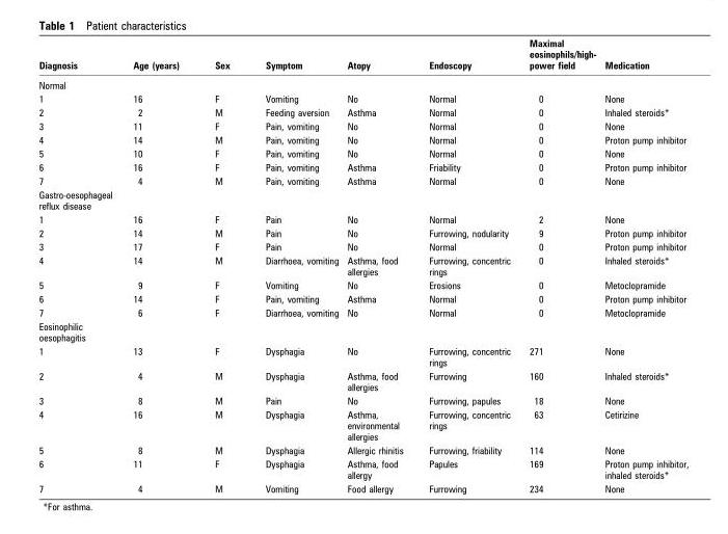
<table><thead><tr><td>Diagnosis</td><td>Age (years)</td><td>Sex</td><td>Symptom</td><td>Atopy</td><td>Endoscopy</td><td>Maximal eosinophils/high- power field</td><td>Medication</td></tr></thead><tbody><tr><td colspan="8">Normal</td></tr><tr><td>1</td><td>16</td><td>F</td><td>Vomiting</td><td>No</td><td>Normal</td><td>0</td><td>None</td></tr><tr><td>2</td><td>2</td><td>M</td><td>Feeding aversion</td><td>Asthma</td><td>Normal</td><td>0</td><td>Inhaled steroids*</td></tr><tr><td>3</td><td>11</td><td>F</td><td>Pain, vomiting</td><td>No</td><td>Normal</td><td>0</td><td>None</td></tr><tr><td>4</td><td>14</td><td>M</td><td>Pain, vomiting</td><td>No</td><td>Normal</td><td>0</td><td>Proton pump inhibitor</td></tr><tr><td>5</td><td>10</td><td>F</td><td>Pain, vomiting</td><td>No</td><td>Normal</td><td>0</td><td>None</td></tr><tr><td>6</td><td>16</td><td>F</td><td>Pain, vomiting</td><td>Asthma</td><td>Friability</td><td>0</td><td>Proton pump inhibitor</td></tr><tr><td>7</td><td>4</td><td>M</td><td>Pain, vomiting</td><td>Asthma</td><td>Normal</td><td>0</td><td>None</td></tr><tr><td colspan="8">Gastro-oesophageal reflux disease</td></tr><tr><td>1</td><td>16</td><td>F</td><td>Pain</td><td>No</td><td>Normal</td><td>2</td><td>None</td></tr><tr><td>2</td><td>14</td><td>M</td><td>Pain</td><td>No</td><td>Furrowing, nodularity</td><td>9</td><td>Proton pump inhibitor</td></tr><tr><td>3</td><td>17</td><td>F</td><td>Pain</td><td>No</td><td>Normal</td><td>0</td><td>Proton pump inhibitor</td></tr><tr><td>4</td><td>14</td><td>M</td><td>Diarrhoea, vomiting</td><td>Asthma, food allergies</td><td>Furrowing, concentric rings</td><td>0</td><td>Inhaled steroids*</td></tr><tr><td>5</td><td>9</td><td>F</td><td>Vomiting</td><td>No</td><td>Erosions</td><td>0</td><td>Metoclopramide</td></tr><tr><td>6</td><td>14</td><td>F</td><td>Pain, vomiting</td><td>Asthma</td><td>Normal</td><td>0</td><td>Proton pump inhibitor</td></tr><tr><td>7</td><td>6</td><td>F</td><td>Diarrhoea, vomiting</td><td>No</td><td>Normal</td><td>0</td><td>Metoclopramide</td></tr><tr><td colspan="8">Eosinophilic oesophagitis</td></tr><tr><td>1</td><td>13</td><td>F</td><td>Dysphagia</td><td>No</td><td>Furrowing, concentric rings</td><td>271</td><td>None</td></tr><tr><td>2</td><td>4</td><td>M</td><td>Dysphagia</td><td>Asthma, food allergies</td><td>Furrowing</td><td>160</td><td>Inhaled steroids*</td></tr><tr><td>3</td><td>8</td><td>M</td><td>Pain</td><td>No</td><td>Furrowing, papules</td><td>18</td><td>None</td></tr><tr><td>4</td><td>16</td><td>M</td><td>Dysphagia</td><td>Asthma, environmental allergies</td><td>Furrowing, concentric rings</td><td>63</td><td>Cetirizine</td></tr><tr><td>5</td><td>8</td><td>M</td><td>Dysphagia</td><td>Allergic rhinitis</td><td>Furrowing, friability</td><td>114</td><td>None</td></tr><tr><td>6</td><td>11</td><td>F</td><td>Dysphagia</td><td>Asthma, food allergy</td><td>Papules</td><td>169</td><td>Proton pump inhibitor, inhaled steroids*</td></tr><tr><td>7</td><td>4</td><td>M</td><td>Vomiting</td><td>Food allergy</td><td>Furrowing</td><td>234</td><td>None</td></tr></tbody></table>